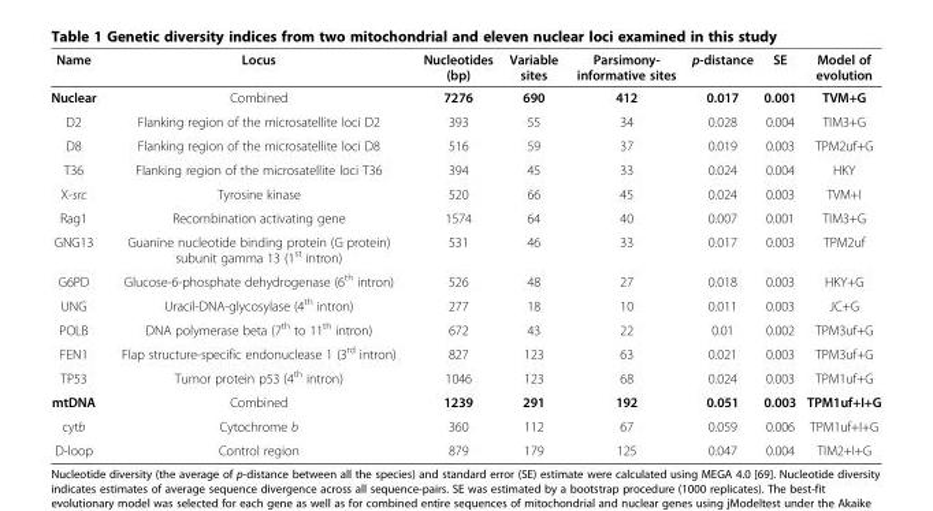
<table><thead><tr><td>Name</td><td>Locus</td><td>Nucleotides (bp)</td><td>Variable sites</td><td>Parsimony- informative sites</td><td>p-distance</td><td>SE</td><td>Model of evolution</td></tr></thead><tbody><tr><td>Nuclear</td><td>Combined</td><td>7276</td><td>690</td><td>412</td><td>0.017</td><td>0.001</td><td>TVM+G</td></tr><tr><td>D2</td><td>Flanking region of the microsatellite loci D2</td><td>393</td><td>55</td><td>34</td><td>0.028</td><td>0.004</td><td>TIM3+G</td></tr><tr><td>D8</td><td>Flanking region of the microsatellite loci D8</td><td>516</td><td>59</td><td>37</td><td>0.019</td><td>0.003</td><td>TPM2uf+G</td></tr><tr><td>T36</td><td>Flanking region of the microsatellite loci T36</td><td>394</td><td>45</td><td>33</td><td>0.024</td><td>0.004</td><td>HKY</td></tr><tr><td>X-src</td><td>Tyrosine kinase</td><td>520</td><td>66</td><td>45</td><td>0.024</td><td>0.003</td><td>TVM+I</td></tr><tr><td>Rag1</td><td>Recombination activating gene</td><td>1574</td><td>64</td><td>40</td><td>0.007</td><td>0.001</td><td>TIM3+G</td></tr><tr><td>GNG13</td><td>Guanine nucleotide binding protein (G protein) subunit gamma 13 (1<sup>st</sup> intron)</td><td>531</td><td>46</td><td>33</td><td>0.017</td><td>0.003</td><td>TPM2uf</td></tr><tr><td>G6PD</td><td>Glucose-6-phosphate dehydrogenase (6<sup>th</sup> intron)</td><td>526</td><td>48</td><td>27</td><td>0.018</td><td>0.003</td><td>HKY+G</td></tr><tr><td>UNG</td><td>Uracil-DNA-glycosylase (4<sup>th</sup> intron)</td><td>277</td><td>18</td><td>10</td><td>0.011</td><td>0.003</td><td>JC+G</td></tr><tr><td>POLB</td><td>DNA polymerase beta (7<sup>th</sup> to 11<sup>th</sup> intron)</td><td>672</td><td>43</td><td>22</td><td>0.01</td><td>0.002</td><td>TPM3uf+G</td></tr><tr><td>FEN1</td><td>Flap structure-specific endonuclease 1 (3<sup>rd</sup> intron)</td><td>827</td><td>123</td><td>63</td><td>0.021</td><td>0.003</td><td>TPM3uf+G</td></tr><tr><td>TP53</td><td>Tumor protein p53 (4<sup>th</sup> intron)</td><td>1046</td><td>123</td><td>68</td><td>0.024</td><td>0.003</td><td>TPM1uf+G</td></tr><tr><td>mtDNA</td><td>Combined</td><td>1239</td><td>291</td><td>192</td><td>0.051</td><td>0.003</td><td>TPM1uf+I+G</td></tr><tr><td>cytb</td><td>Cytochrome b</td><td>360</td><td>112</td><td>67</td><td>0.059</td><td>0.006</td><td>TPM1uf+I+G</td></tr><tr><td>D-loop</td><td>Control region</td><td>879</td><td>179</td><td>125</td><td>0.047</td><td>0.004</td><td>TIM2+I+G</td></tr></tbody></table>